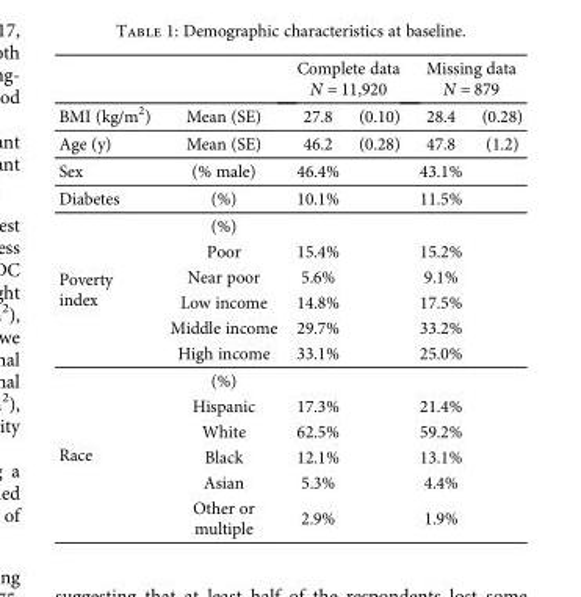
<table><thead><tr><td rowspan="2">BMI (kg/m<sup>2</sup>)</td><td rowspan="2">Mean (SE)</td><td colspan="2">Complete data N = 11,920</td><td colspan="2">Missing data N = 879</td></tr><tr><td>27.8</td><td>(0.10)</td><td>28.4</td><td>(0.28)</td></tr></thead><tbody><tr><td>Age (y)</td><td>Mean (SE)</td><td>46.2</td><td>(0.28)</td><td>47.8</td><td>(1.2)</td></tr><tr><td>Sex</td><td>(% male)</td><td>46.4%</td><td></td><td>43.1%</td><td></td></tr><tr><td>Diabetes</td><td>(%)</td><td>10.1%</td><td></td><td>11.5%</td><td></td></tr><tr><td rowspan="6">Poverty index</td><td>(%)</td><td></td><td></td><td></td><td></td></tr><tr><td>Poor</td><td>15.4%</td><td></td><td>15.2%</td><td></td></tr><tr><td>Near poor</td><td>5.6%</td><td></td><td>9.1%</td><td></td></tr><tr><td>Low income</td><td>14.8%</td><td></td><td>17.5%</td><td></td></tr><tr><td>Middle income</td><td>29.7%</td><td></td><td>33.2%</td><td></td></tr><tr><td>High income</td><td>33.1%</td><td></td><td>25.0%</td><td></td></tr><tr><td rowspan="6">Race</td><td>(%)</td><td></td><td></td><td></td><td></td></tr><tr><td>Hispanic</td><td>17.3%</td><td></td><td>21.4%</td><td></td></tr><tr><td>White</td><td>62.5%</td><td></td><td>59.2%</td><td></td></tr><tr><td>Black</td><td>12.1%</td><td></td><td>13.1%</td><td></td></tr><tr><td>Asian</td><td>5.3%</td><td></td><td>4.4%</td><td></td></tr><tr><td>Other or multiple</td><td>2.9%</td><td></td><td>1.9%</td><td></td></tr></tbody></table>